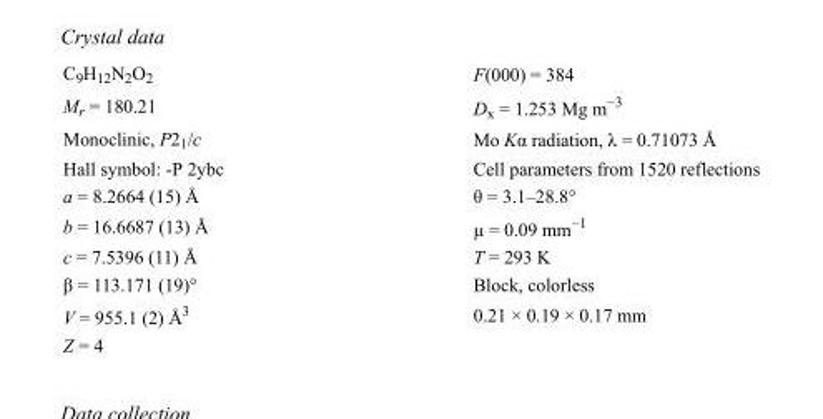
<table><tbody><tr><td>C<sub>9</sub>H<sub>12</sub>N<sub>2</sub>O<sub>2</sub></td><td>F(000) = 384</td></tr><tr><td>M<sub>r</sub> = 180.21</td><td>D<sub>x</sub> = 1.253 Mg m<sup>−3</sup></td></tr><tr><td>Monoclinic, P2<sub>1</sub>/c</td><td>Mo Kα radiation, λ = 0.71073 Å</td></tr><tr><td>Hall symbol: -P 2ybc</td><td>Cell parameters from 1520 reflections</td></tr><tr><td>a = 8.2664 (15) Å</td><td>θ = 3.1–28.8°</td></tr><tr><td>b = 16.6687 (13) Å</td><td>µ = 0.09 mm<sup>−1</sup></td></tr><tr><td>c = 7.5396 (11) Å</td><td>T = 293 K</td></tr><tr><td>β = 113.171 (19)°</td><td>Block, colorless</td></tr><tr><td>V = 955.1 (2) Å<sup>3</sup></td><td>0.21 × 0.19 × 0.17 mm</td></tr><tr><td>Z = 4</td><td></td></tr></tbody></table>